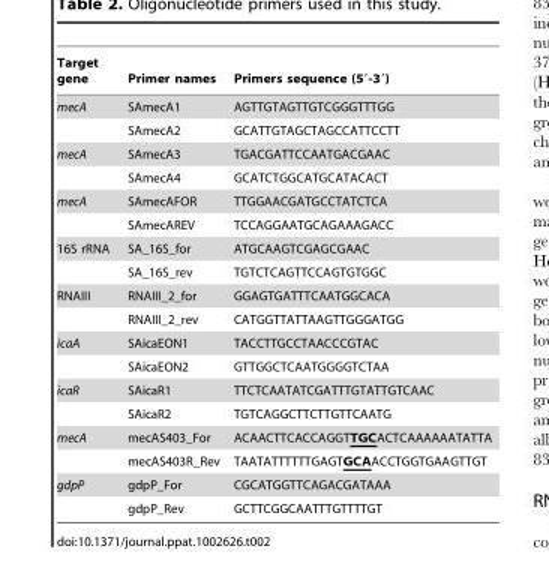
<table><thead><tr><td>Target gene</td><td>Primer names</td><td>Primers sequence (5′-3′)</td></tr></thead><tbody><tr><td rowspan="2">mecA</td><td>SAmecA1</td><td>AGTTGTAGTTGTCGGGTTTGG</td></tr><tr><td>SAmecA2</td><td>GCATTGTAGCTAGCCATTCCTT</td></tr><tr><td rowspan="2">mecA</td><td>SAmecA3</td><td>TGACGATTCCAATGACGAAC</td></tr><tr><td>SAmecA4</td><td>GCATCTGGCATGCATACACT</td></tr><tr><td rowspan="2">mecA</td><td>SAmecAFOR</td><td>TTGGAACGATGCCTATCTCA</td></tr><tr><td>SAmecAREV</td><td>TCCAGGAATGCAGAAAGACC</td></tr><tr><td rowspan="2">16S rRNA</td><td>SA_16S_for</td><td>ATGCAAGTCGAGCGAAC</td></tr><tr><td>SA_16S_rev</td><td>TGTCTCAGTTCCAGTGTGGC</td></tr><tr><td rowspan="2">RNAIII</td><td>RNAIII_2_for</td><td>GGAGTGATTTCAATGGCACA</td></tr><tr><td>RNAIII_2_rev</td><td>CATGGTTATTAAGTTGGGATGG</td></tr><tr><td rowspan="2">icaA</td><td>SAicaEON1</td><td>TACCTTGCCTAACCCGTAC</td></tr><tr><td>SAicaEON2</td><td>GTTGGCTCAATGGGGTCTAA</td></tr><tr><td rowspan="2">icaR</td><td>SAicaR1</td><td>TTCTCAATATCGATTTGTATTGTCAAC</td></tr><tr><td>SAicaR2</td><td>TGTCAGGCTTCTTGTTCAATG</td></tr><tr><td rowspan="2">mecA</td><td>mecAS403_For</td><td>ACAACTTCACCAGGTTGCACTCAAAAAATATTA</td></tr><tr><td>mecAS403R_Rev</td><td>TAATATTTTTTGAGTGCAACCTGGTGAAGTTGT</td></tr><tr><td rowspan="2">gdpP</td><td>gdpP_For</td><td>CGCATGGTTCAGACGATAAA</td></tr><tr><td>gdpP_Rev</td><td>GCTTCGGCAATTTGTTTTGT</td></tr></tbody></table>